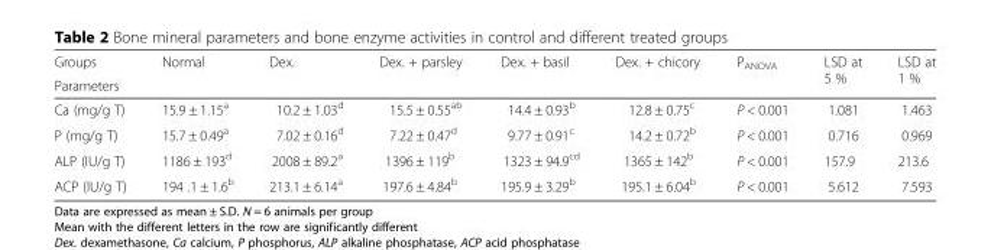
<table><thead><tr><td rowspan="2">Groups Parameters</td><td rowspan="2">Normal</td><td rowspan="2">Dex.</td><td rowspan="2">Dex. + parsley</td><td rowspan="2">Dex. + basil</td><td rowspan="2">Dex. + chicory</td><td rowspan="2">P<sub>ANOVA</sub></td><td rowspan="2">LSD at 5 %</td><td rowspan="2">LSD at 1 %</td></tr><tr></tr></thead><tbody><tr><td>Ca (mg/g T)</td><td>15.9 ± 1.15<sup>a</sup></td><td>10.2 ± 1.03<sup>d</sup></td><td>15.5 ± 0.55<sup>ab</sup></td><td>14.4 ± 0.93<sup>b</sup></td><td>12.8 ± 0.75<sup>c</sup></td><td>P &lt; 0.001</td><td>1.081</td><td>1.463</td></tr><tr><td>P (mg/g T)</td><td>15.7 ± 0.49<sup>a</sup></td><td>7.02 ± 0.16<sup>d</sup></td><td>7.22 ± 0.47<sup>d</sup></td><td>9.77 ± 0.91<sup>c</sup></td><td>14.2 ± 0.72<sup>b</sup></td><td>P &lt; 0.001</td><td>0.716</td><td>0.969</td></tr><tr><td>ALP (IU/g T)</td><td>1186 ± 193<sup>d</sup></td><td>2008 ± 89.2<sup>a</sup></td><td>1396 ± 119<sup>b</sup></td><td>1323 ± 94.9<sup>cd</sup></td><td>1365 ± 142<sup>b</sup></td><td>P &lt; 0.001</td><td>157.9</td><td>213.6</td></tr><tr><td>ACP (IU/g T)</td><td>194 .1 ± 1.6<sup>b</sup></td><td>213.1 ± 6.14<sup>a</sup></td><td>197.6 ± 4.84<sup>b</sup></td><td>195.9 ± 3.29<sup>b</sup></td><td>195.1 ± 6.04<sup>b</sup></td><td>P &lt; 0.001</td><td>5.612</td><td>7.593</td></tr></tbody></table>